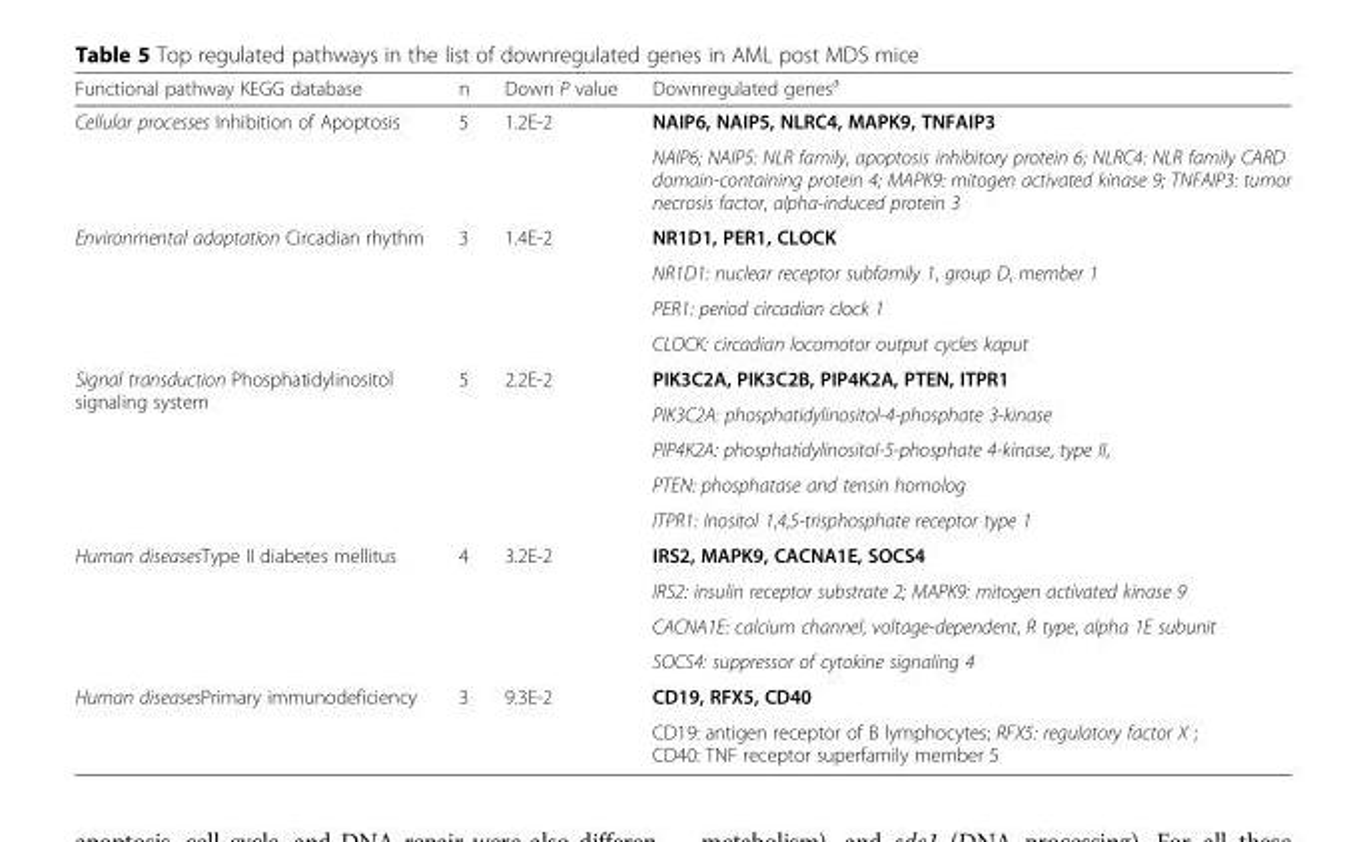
<table><thead><tr><td>Functional pathway KEGG database</td><td>n</td><td>Down P value</td><td>Downregulated genes<sup>a</sup></td></tr></thead><tbody><tr><td rowspan="2">Cellular processes Inhibition of Apoptosis</td><td rowspan="2">5</td><td rowspan="2">1.2E-2</td><td>NAIP6, NAIP5, NLRC4, MAPK9, TNFAIP3</td></tr><tr><td>NAIP6; NAIP5: NLR family, apoptosis inhibitory protein 6; NLRC4: NLR family CARD domain-containing protein 4; MAPK9: mitogen activated kinase 9; TNFAIP3: tumor necrosis factor, alpha-induced protein 3</td></tr><tr><td rowspan="4">Environmental adaptation Circadian rhythm</td><td rowspan="4">3</td><td rowspan="4">1.4E-2</td><td>NR1D1, PER1, CLOCK</td></tr><tr><td>NR1D1: nuclear receptor subfamily 1, group D, member 1</td></tr><tr><td>PER1: period circadian clock 1</td></tr><tr><td>CLOCK: circadian locomotor output cycles kaput</td></tr><tr><td rowspan="5">Signal transduction Phosphatidylinositol signaling system</td><td rowspan="5">5</td><td rowspan="5">2.2E-2</td><td>PIK3C2A, PIK3C2B, PIP4K2A, PTEN, ITPR1</td></tr><tr><td>PIK3C2A: phosphatidylinositol-4-phosphate 3-kinase</td></tr><tr><td>PIP4K2A: phosphatidylinositol-5-phosphate 4-kinase, type II,</td></tr><tr><td>PTEN: phosphatase and tensin homolog</td></tr><tr><td>ITPR1: Inositol 1,4,5-trisphosphate receptor type 1</td></tr><tr><td rowspan="4">Human diseasesType II diabetes mellitus</td><td rowspan="4">4</td><td rowspan="4">3.2E-2</td><td>IRS2, MAPK9, CACNA1E, SOCS4</td></tr><tr><td>IRS2: insulin receptor substrate 2; MAPK9: mitogen activated kinase 9</td></tr><tr><td>CACNA1E: calcium channel, voltage-dependent, R type, alpha 1E subunit</td></tr><tr><td>SOCS4: suppressor of cytokine signaling 4</td></tr><tr><td rowspan="2">Human diseasesPrimary immunodeficiency</td><td rowspan="2">3</td><td rowspan="2">9.3E-2</td><td>CD19, RFX5, CD40</td></tr><tr><td>CD19: antigen receptor of B lymphocytes; RFX5: regulatory factor X ; CD40: TNF receptor superfamily member 5</td></tr></tbody></table>